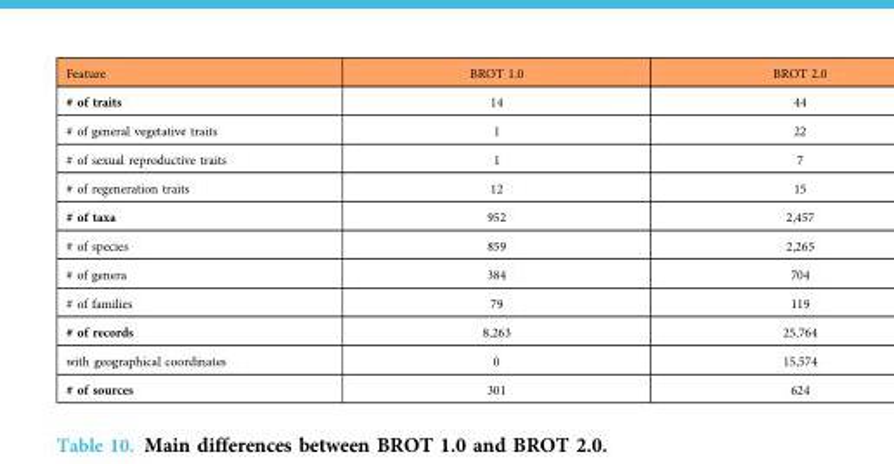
<table><thead><tr><td>Feature</td><td>BROT 1.0</td><td>BROT 2.0</td></tr></thead><tbody><tr><td># of traits</td><td>14</td><td>44</td></tr><tr><td># of general vegetative traits</td><td>1</td><td>22</td></tr><tr><td># of sexual reproductive traits</td><td>1</td><td>7</td></tr><tr><td># of regeneration traits</td><td>12</td><td>15</td></tr><tr><td># of taxa</td><td>952</td><td>2,457</td></tr><tr><td># of species</td><td>859</td><td>2,265</td></tr><tr><td># of genera</td><td>384</td><td>704</td></tr><tr><td># of families</td><td>79</td><td>119</td></tr><tr><td># of records</td><td>8,263</td><td>25,764</td></tr><tr><td>with geographical coordinates</td><td>0</td><td>15,574</td></tr><tr><td># of sources</td><td>301</td><td>624</td></tr></tbody></table>